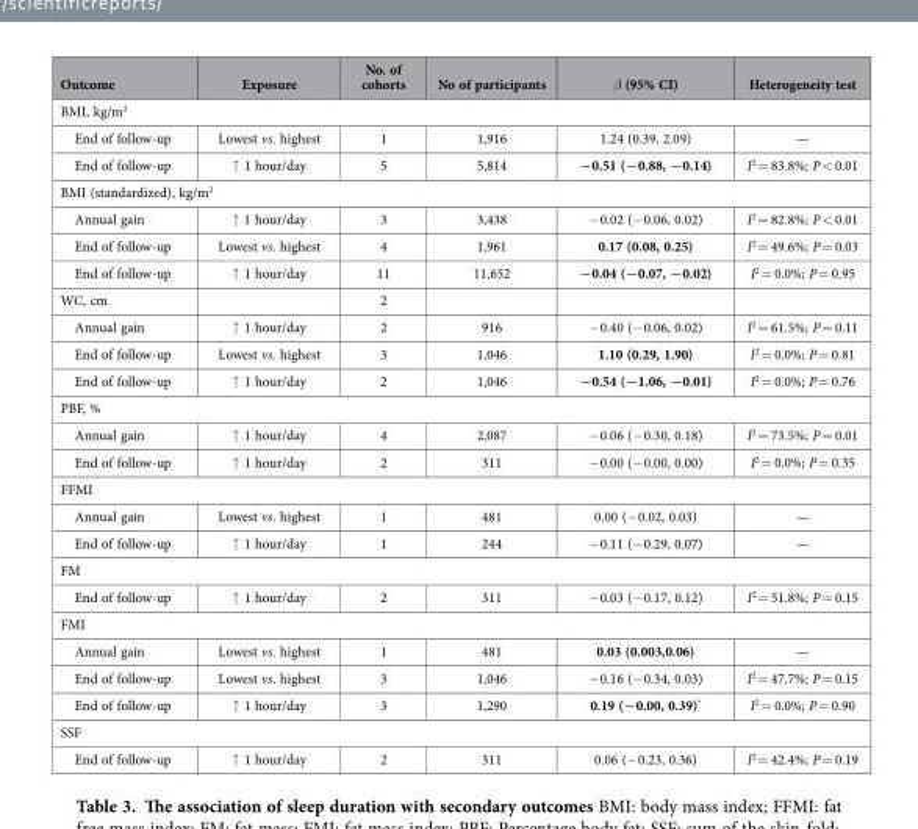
<table><thead><tr><td>Outcome</td><td>Exposure</td><td>No. of cohorts</td><td>No of participants</td><td>β (95% CI)</td><td>Heterogeneity test</td></tr></thead><tbody><tr><td colspan="6">BMI, kg/m<sup>2</sup></td></tr><tr><td>End of follow-up</td><td>Lowest vs. highest</td><td>1</td><td>1,916</td><td>1.24 (0.39, 2.09)</td><td>—</td></tr><tr><td>End of follow-up</td><td>↑ 1 hour/day</td><td>5</td><td>5,814</td><td>−0.51 (−0.88, −0.14)</td><td>I<sup>2</sup> = 83.8%; P &lt; 0.01</td></tr><tr><td colspan="6">BMI (standardized), kg/m<sup>2</sup></td></tr><tr><td>Annual gain</td><td>↑ 1 hour/day</td><td>3</td><td>3,438</td><td>− 0.02 (− 0.06, 0.02)</td><td>I<sup>2</sup> = 82.8%; P &lt; 0.01</td></tr><tr><td>End of follow-up</td><td>Lowest vs. highest</td><td>4</td><td>1,961</td><td>0.17 (0.08, 0.25)</td><td>I<sup>2</sup> = 49.6%; P = 0.03</td></tr><tr><td>End of follow-up</td><td>↑ 1 hour/day</td><td>11</td><td>11,652</td><td>−0.04 (−0.07, −0.02)</td><td>I<sup>2</sup> = 0.0%; P = 0.95</td></tr><tr><td>WC, cm</td><td></td><td>2</td><td></td><td></td><td></td></tr><tr><td>Annual gain</td><td>↑ 1 hour/day</td><td>2</td><td>916</td><td>− 0.40 (− 0.06, 0.02)</td><td>I<sup>2</sup> = 61.5%; P = 0.11</td></tr><tr><td>End of follow-up</td><td>Lowest vs. highest</td><td>3</td><td>1,046</td><td>1.10 (0.29, 1.90)</td><td>I<sup>2</sup> = 0.0%; P = 0.81</td></tr><tr><td>End of follow-up</td><td>↑ 1 hour/day</td><td>2</td><td>1,046</td><td>−0.54 (−1.06, −0.01)</td><td>I<sup>2</sup> = 0.0%; P = 0.76</td></tr><tr><td colspan="6">PBF, %</td></tr><tr><td>Annual gain</td><td>↑ 1 hour/day</td><td>4</td><td>2,087</td><td>− 0.06 (− 0.30, 0.18)</td><td>I<sup>2</sup> = 73.5%; P = 0.01</td></tr><tr><td>End of follow-up</td><td>↑ 1 hour/day</td><td>2</td><td>311</td><td>− 0.00 (− 0.00, 0.00)</td><td>I<sup>2</sup> = 0.0%; P = 0.35</td></tr><tr><td colspan="6">FFMI</td></tr><tr><td>Annual gain</td><td>Lowest vs. highest</td><td>1</td><td>481</td><td>0.00 (− 0.02, 0.03)</td><td>—</td></tr><tr><td>End of follow-up</td><td>↑ 1 hour/day</td><td>1</td><td>244</td><td>− 0.11 (− 0.29, 0.07)</td><td>—</td></tr><tr><td colspan="6">FM</td></tr><tr><td>End of follow-up</td><td>↑ 1 hour/day</td><td>2</td><td>311</td><td>− 0.03 (− 0.17, 0.12)</td><td>I<sup>2</sup> = 51.8%; P = 0.15</td></tr><tr><td colspan="6">FMI</td></tr><tr><td>Annual gain</td><td>Lowest vs. highest</td><td>1</td><td>481</td><td>0.03 (0.003,0.06)</td><td>—</td></tr><tr><td>End of follow-up</td><td>Lowest vs. highest</td><td>3</td><td>1,046</td><td>− 0.16 (− 0.34, 0.03)</td><td>I<sup>2</sup> = 47.7%; P = 0.15</td></tr><tr><td>End of follow-up</td><td>↑ 1 hour/day</td><td>3</td><td>1,290</td><td>0.19 (−0.00, 0.39)*</td><td>I<sup>2</sup> = 0.0%; P = 0.90</td></tr><tr><td colspan="6">SSF</td></tr><tr><td>End of follow-up</td><td>↑ 1 hour/day</td><td>2</td><td>311</td><td>0.06 (− 0.23, 0.36)</td><td>I<sup>2</sup> = 42.4%; P = 0.19</td></tr></tbody></table>